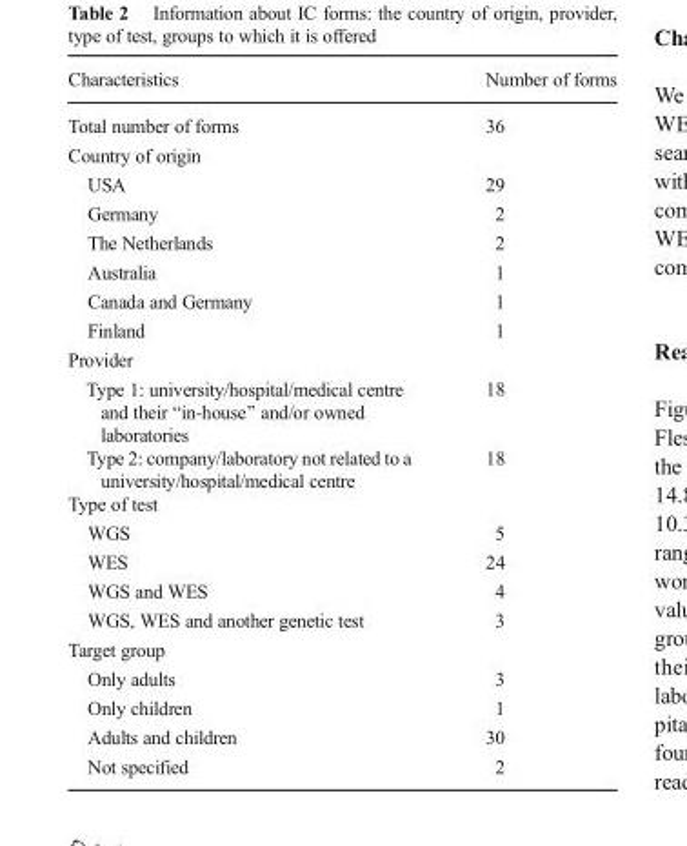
<table><thead><tr><td>Characteristics</td><td>Number of forms</td></tr></thead><tbody><tr><td>Total number of forms</td><td>36</td></tr><tr><td colspan="2">Country of origin</td></tr><tr><td>USA</td><td>29</td></tr><tr><td>Germany</td><td>2</td></tr><tr><td>The Netherlands</td><td>2</td></tr><tr><td>Australia</td><td>1</td></tr><tr><td>Canada and Germany</td><td>1</td></tr><tr><td>Finland</td><td>1</td></tr><tr><td colspan="2">Provider</td></tr><tr><td>Type 1: university/hospital/medical centre and their “in-house” and/or owned laboratories</td><td>18</td></tr><tr><td>Type 2: company/laboratory not related to a university/hospital/medical centre</td><td>18</td></tr><tr><td colspan="2">Type of test</td></tr><tr><td>WGS</td><td>5</td></tr><tr><td>WES</td><td>24</td></tr><tr><td>WGS and WES</td><td>4</td></tr><tr><td>WGS, WES and another genetic test</td><td>3</td></tr><tr><td colspan="2">Target group</td></tr><tr><td>Only adults</td><td>3</td></tr><tr><td>Only children</td><td>1</td></tr><tr><td>Adults and children</td><td>30</td></tr><tr><td>Not specified</td><td>2</td></tr></tbody></table>